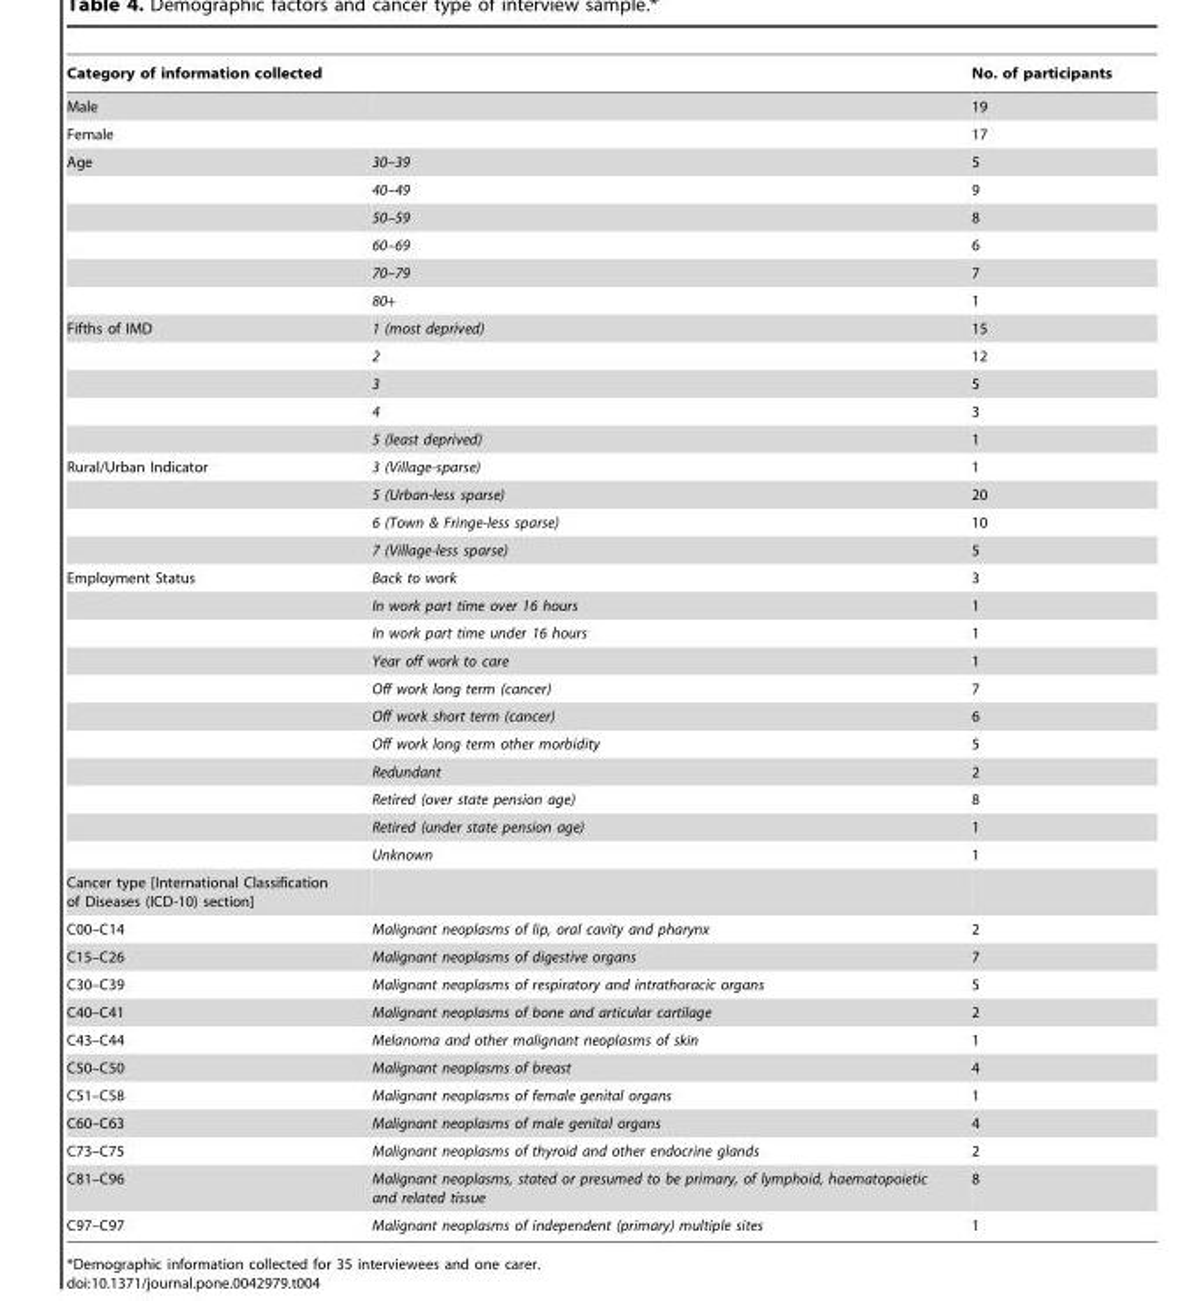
<table><thead><tr><td colspan="2">Category of information collected</td><td rowspan="2">No. of participants 19</td></tr><tr><td>Male</td><td></td></tr></thead><tbody><tr><td>Female</td><td></td><td>17</td></tr><tr><td rowspan="6">Age</td><td>30–39</td><td>5</td></tr><tr><td>40–49</td><td>9</td></tr><tr><td>50–59</td><td>8</td></tr><tr><td>60–69</td><td>6</td></tr><tr><td>70–79</td><td>7</td></tr><tr><td>80+</td><td>1</td></tr><tr><td rowspan="5">Fifths of IMD</td><td>1 (most deprived)</td><td>15</td></tr><tr><td>2</td><td>12</td></tr><tr><td>3</td><td>5</td></tr><tr><td>4</td><td>3</td></tr><tr><td>5 (least deprived)</td><td>1</td></tr><tr><td rowspan="4">Rural/Urban Indicator</td><td>3 (Village-sparse)</td><td>1</td></tr><tr><td>5 (Urban-less sparse)</td><td>20</td></tr><tr><td>6 (Town &amp; Fringe-less sparse)</td><td>10</td></tr><tr><td>7 (Village-less sparse)</td><td>5</td></tr><tr><td rowspan="11">Employment Status</td><td>Back to work</td><td>3</td></tr><tr><td>In work part time over 16 hours</td><td>1</td></tr><tr><td>In work part time under 16 hours</td><td>1</td></tr><tr><td>Year off work to care</td><td>1</td></tr><tr><td>Off work long term (cancer)</td><td>7</td></tr><tr><td>Off work short term (cancer)</td><td>6</td></tr><tr><td>Off work long term other morbidity</td><td>5</td></tr><tr><td>Redundant</td><td>2</td></tr><tr><td>Retired (over state pension age)</td><td>8</td></tr><tr><td>Retired (under state pension age)</td><td>1</td></tr><tr><td>Unknown</td><td>1</td></tr><tr><td colspan="3">Cancer type [International Classification of Diseases (ICD-10) section]</td></tr><tr><td>C00–C14</td><td>Malignant neoplasms of lip, oral cavity and pharynx</td><td>2</td></tr><tr><td>C15–C26</td><td>Malignant neoplasms of digestive organs</td><td>7</td></tr><tr><td>C30–C39</td><td>Malignant neoplasms of respiratory and intrathoracic organs</td><td>5</td></tr><tr><td>C40–C41</td><td>Malignant neoplasms of bone and articular cartilage</td><td>2</td></tr><tr><td>C43–C44</td><td>Melanoma and other malignant neoplasms of skin</td><td>1</td></tr><tr><td>C50–C50</td><td>Malignant neoplasms of breast</td><td>4</td></tr><tr><td>C51–C58</td><td>Malignant neoplasms of female genital organs</td><td>1</td></tr><tr><td>C60–C63</td><td>Malignant neoplasms of male genital organs</td><td>4</td></tr><tr><td>C73–C75</td><td>Malignant neoplasms of thyroid and other endocrine glands</td><td>2</td></tr><tr><td>C81–C96</td><td>Malignant neoplasms, stated or presumed to be primary, of lymphoid, haematopoietic and related tissue</td><td>8</td></tr><tr><td>C97–C97</td><td>Malignant neoplasms of independent (primary) multiple sites</td><td>1</td></tr></tbody></table>